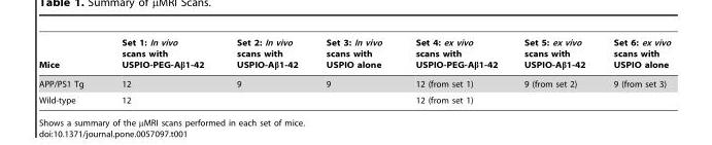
<table><thead><tr><td>Mice</td><td>Set 1: In vivo scans with USPIO-PEG-Aβ1-42</td><td>Set 2: In vivo scans with USPIO-Aβ1-42</td><td>Set 3: In vivo scans with USPIO alone</td><td>Set 4: ex vivo scans with USPIO-PEG-Aβ1-42</td><td>Set 5: ex vivo scans with USPIO-Aβ1-42</td><td>Set 6: ex vivo scans with USPIO alone</td></tr></thead><tbody><tr><td>APP/PS1 Tg</td><td>12</td><td>9</td><td>9</td><td>12 (from set 1)</td><td>9 (from set 2)</td><td>9 (from set 3)</td></tr><tr><td>Wild-type</td><td>12</td><td></td><td></td><td>12 (from set 1)</td><td></td><td></td></tr></tbody></table>